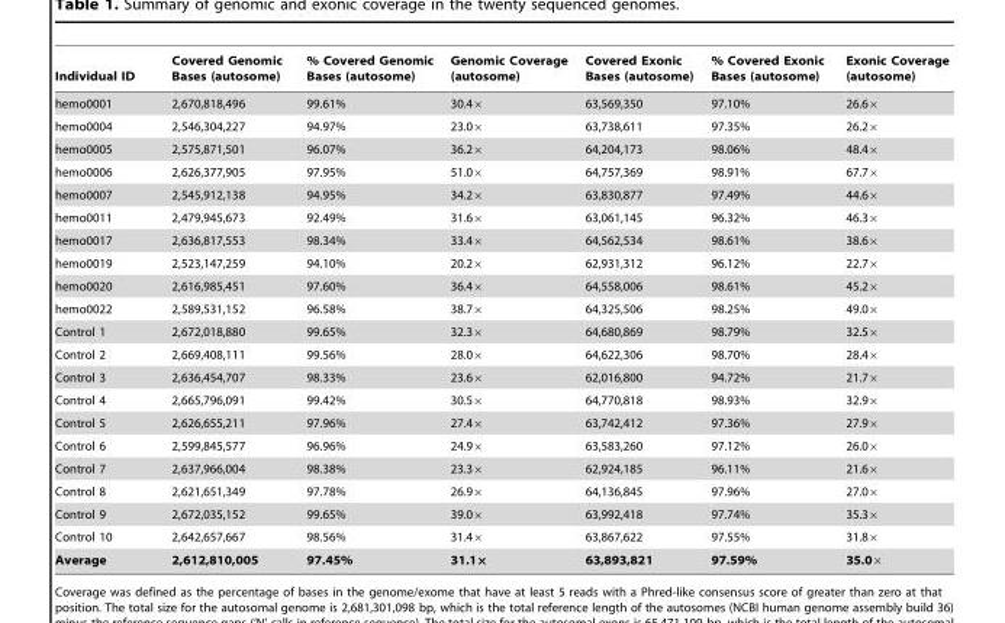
<table><thead><tr><td>Individual ID</td><td>Covered Genomic Bases (autosome)</td><td>% Covered Genomic Bases (autosome)</td><td>Genomic Coverage (autosome)</td><td>Covered Exonic Bases (autosome)</td><td>% Covered Exonic Bases (autosome)</td><td>Exonic Coverage (autosome)</td></tr></thead><tbody><tr><td>hemo0001</td><td>2,670,818,496</td><td>99.61%</td><td>30.4×</td><td>63,569,350</td><td>97.10%</td><td>26.6×</td></tr><tr><td>hemo0004</td><td>2,546,304,227</td><td>94.97%</td><td>23.0×</td><td>63,738,611</td><td>97.35%</td><td>26.2×</td></tr><tr><td>hemo0005</td><td>2,575,871,501</td><td>96.07%</td><td>36.2×</td><td>64,204,173</td><td>98.06%</td><td>48.4×</td></tr><tr><td>hemo0006</td><td>2,626,377,905</td><td>97.95%</td><td>51.0×</td><td>64,757,369</td><td>98.91%</td><td>67.7×</td></tr><tr><td>hemo0007</td><td>2,545,912,138</td><td>94.95%</td><td>34.2×</td><td>63,830,877</td><td>97.49%</td><td>44.6×</td></tr><tr><td>hemo0011</td><td>2,479,945,673</td><td>92.49%</td><td>31.6×</td><td>63,061,145</td><td>96.32%</td><td>46.3×</td></tr><tr><td>hemo0017</td><td>2,636,817,553</td><td>98.34%</td><td>33.4×</td><td>64,562,534</td><td>98.61%</td><td>38.6×</td></tr><tr><td>hemo0019</td><td>2,523,147,259</td><td>94.10%</td><td>20.2×</td><td>62,931,312</td><td>96.12%</td><td>22.7×</td></tr><tr><td>hemo0020</td><td>2,616,985,451</td><td>97.60%</td><td>36.4×</td><td>64,558,006</td><td>98.61%</td><td>45.2×</td></tr><tr><td>hemo0022</td><td>2,589,531,152</td><td>96.58%</td><td>38.7×</td><td>64,325,506</td><td>98.25%</td><td>49.0×</td></tr><tr><td>Control 1</td><td>2,672,018,880</td><td>99.65%</td><td>32.3×</td><td>64,680,869</td><td>98.79%</td><td>32.5×</td></tr><tr><td>Control 2</td><td>2,669,408,111</td><td>99.56%</td><td>28.0×</td><td>64,622,306</td><td>98.70%</td><td>28.4×</td></tr><tr><td>Control 3</td><td>2,636,454,707</td><td>98.33%</td><td>23.6×</td><td>62,016,800</td><td>94.72%</td><td>21.7×</td></tr><tr><td>Control 4</td><td>2,665,796,091</td><td>99.42%</td><td>30.5×</td><td>64,770,818</td><td>98.93%</td><td>32.9×</td></tr><tr><td>Control 5</td><td>2,626,655,211</td><td>97.96%</td><td>27.4×</td><td>63,742,412</td><td>97.36%</td><td>27.9×</td></tr><tr><td>Control 6</td><td>2,599,845,577</td><td>96.96%</td><td>24.9×</td><td>63,583,260</td><td>97.12%</td><td>26.0×</td></tr><tr><td>Control 7</td><td>2,637,966,004</td><td>98.38%</td><td>23.3×</td><td>62,924,185</td><td>96.11%</td><td>21.6×</td></tr><tr><td>Control 8</td><td>2,621,651,349</td><td>97.78%</td><td>26.9×</td><td>64,136,845</td><td>97.96%</td><td>27.0×</td></tr><tr><td>Control 9</td><td>2,672,035,152</td><td>99.65%</td><td>39.0×</td><td>63,992,418</td><td>97.74%</td><td>35.3×</td></tr><tr><td>Control 10</td><td>2,642,657,667</td><td>98.56%</td><td>31.4×</td><td>63,867,622</td><td>97.55%</td><td>31.8×</td></tr><tr><td>Average</td><td>2,612,810,005</td><td>97.45%</td><td>31.1×</td><td>63,893,821</td><td>97.59%</td><td>35.0×</td></tr></tbody></table>